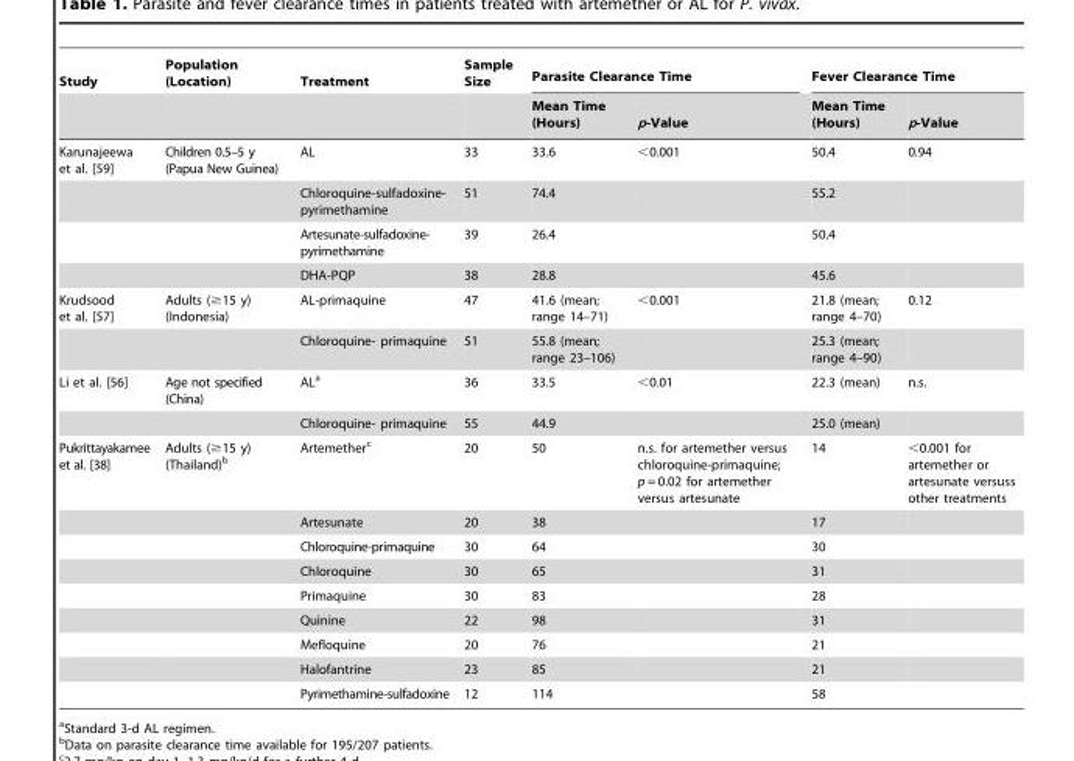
<table><thead><tr><td rowspan="2">Study</td><td rowspan="2">Population (Location)</td><td rowspan="2">Treatment</td><td rowspan="2">Sample Size</td><td colspan="2">Parasite Clearance Time</td><td colspan="2">Fever Clearance Time</td></tr><tr><td>Mean Time (Hours)</td><td>p-Value</td><td>Mean Time (Hours)</td><td>p-Value</td></tr></thead><tbody><tr><td rowspan="4">Karunajeewa et al. [59]</td><td>Children 0.5–5 y (Papua New Guinea)</td><td>AL</td><td>33</td><td>33.6</td><td>&lt;0.001</td><td>50.4</td><td>0.94</td></tr><tr><td></td><td>Chloroquine-sulfadoxine- pyrimethamine</td><td>51</td><td>74.4</td><td></td><td>55.2</td><td></td></tr><tr><td></td><td>Artesunate-sulfadoxine- pyrimethamine</td><td>39</td><td>26.4</td><td></td><td>50.4</td><td></td></tr><tr><td></td><td>DHA-PQP</td><td>38</td><td>28.8</td><td></td><td>45.6</td><td></td></tr><tr><td rowspan="2">Krudsood et al. [57]</td><td>Adults (≥15 y) (Indonesia)</td><td>AL-primaquine</td><td>47</td><td>41.6 (mean; range 14–71)</td><td>&lt;0.001</td><td>21.8 (mean; range 4–70)</td><td>0.12</td></tr><tr><td></td><td>Chloroquine- primaquine</td><td>51</td><td>55.8 (mean; range 23–106)</td><td></td><td>25.3 (mean; range 4–90)</td><td></td></tr><tr><td rowspan="2">Li et al. [56]</td><td>Age not specified (China)</td><td>AL<sup>a</sup></td><td>36</td><td>33.5</td><td>&lt;0.01</td><td>22.3 (mean)</td><td>n.s.</td></tr><tr><td></td><td>Chloroquine- primaquine</td><td>55</td><td>44.9</td><td></td><td>25.0 (mean)</td><td></td></tr><tr><td rowspan="9">Pukrittayakamee et al. [38]</td><td>Adults (≥15 y) (Thailand)<sup>b</sup></td><td>Artemether<sup>c</sup></td><td>20</td><td>50</td><td>n.s. for artemether versus chloroquine-primaquine; p = 0.02 for artemether versus artesunate</td><td>14</td><td>&lt;0.001 for artemether or artesunate versuss other treatments</td></tr><tr><td></td><td>Artesunate</td><td>20</td><td>38</td><td></td><td>17</td><td></td></tr><tr><td></td><td>Chloroquine-primaquine</td><td>30</td><td>64</td><td></td><td>30</td><td></td></tr><tr><td></td><td>Chloroquine</td><td>30</td><td>65</td><td></td><td>31</td><td></td></tr><tr><td></td><td>Primaquine</td><td>30</td><td>83</td><td></td><td>28</td><td></td></tr><tr><td></td><td>Quinine</td><td>22</td><td>98</td><td></td><td>31</td><td></td></tr><tr><td></td><td>Mefloquine</td><td>20</td><td>76</td><td></td><td>21</td><td></td></tr><tr><td></td><td>Halofantrine</td><td>23</td><td>85</td><td></td><td>21</td><td></td></tr><tr><td></td><td>Pyrimethamine-sulfadoxine</td><td>12</td><td>114</td><td></td><td>58</td><td></td></tr></tbody></table>